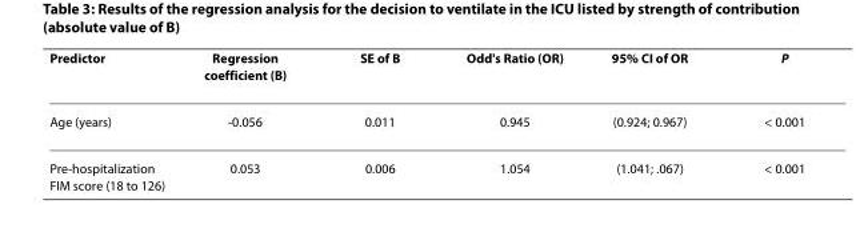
<table><thead><tr><td>Predictor</td><td>Regression coefficient (B)</td><td>SE of B</td><td>Odd&#x27;s Ratio (OR)</td><td>95% CI of OR</td><td>P</td></tr></thead><tbody><tr><td>Age (years)</td><td>-0.056</td><td>0.011</td><td>0.945</td><td>(0.924; 0.967)</td><td>&lt; 0.001</td></tr><tr><td>Pre-hospitalization FIM score (18 to 126)</td><td>0.053</td><td>0.006</td><td>1.054</td><td>(1.041; .067)</td><td>&lt; 0.001</td></tr></tbody></table>